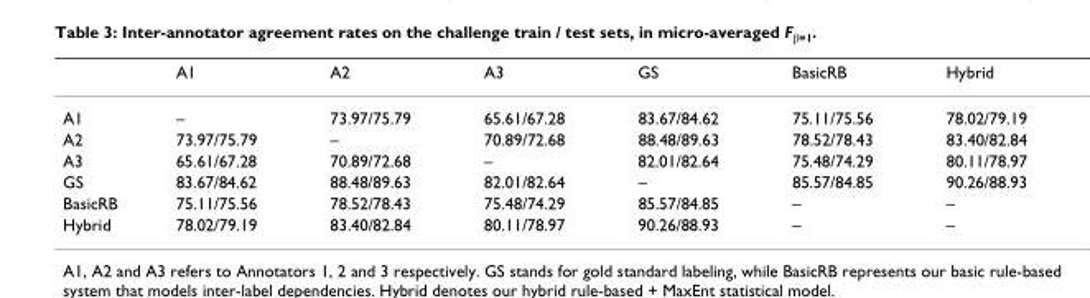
<table><thead><tr><td></td><td>A1</td><td>A2</td><td>A3</td><td>GS</td><td>BasicRB</td><td>Hybrid</td></tr></thead><tbody><tr><td>A1</td><td>–</td><td>73.97/75.79</td><td>65.61/67.28</td><td>83.67/84.62</td><td>75.11/75.56</td><td>78.02/79.19</td></tr><tr><td>A2</td><td>73.97/75.79</td><td>–</td><td>70.89/72.68</td><td>88.48/89.63</td><td>78.52/78.43</td><td>83.40/82.84</td></tr><tr><td>A3</td><td>65.61/67.28</td><td>70.89/72.68</td><td>–</td><td>82.01/82.64</td><td>75.48/74.29</td><td>80.11/78.97</td></tr><tr><td>GS</td><td>83.67/84.62</td><td>88.48/89.63</td><td>82.01/82.64</td><td>–</td><td>85.57/84.85</td><td>90.26/88.93</td></tr><tr><td>BasicRB</td><td>75.11/75.56</td><td>78.52/78.43</td><td>75.48/74.29</td><td>85.57/84.85</td><td>–</td><td>–</td></tr><tr><td>Hybrid</td><td>78.02/79.19</td><td>83.40/82.84</td><td>80.11/78.97</td><td>90.26/88.93</td><td>–</td><td>–</td></tr></tbody></table>